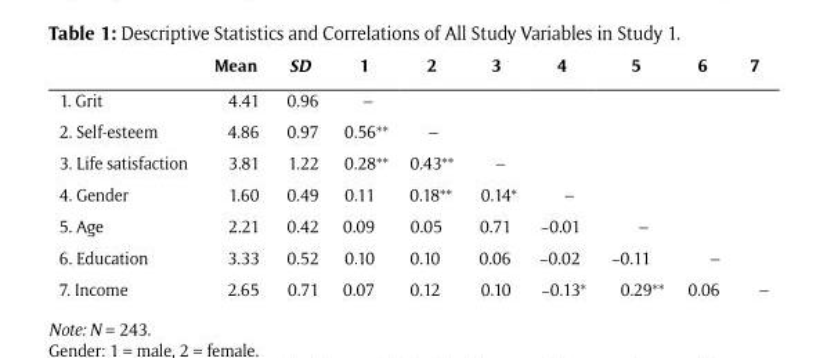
<table><thead><tr><td></td><td>Mean</td><td>SD</td><td>1</td><td>2</td><td>3</td><td>4</td><td>5</td><td>6</td><td>7</td></tr></thead><tbody><tr><td>1. Grit</td><td>4.41</td><td>0.96</td><td>–</td><td></td><td></td><td></td><td></td><td></td><td></td></tr><tr><td>2. Self-esteem</td><td>4.86</td><td>0.97</td><td>0.56**</td><td>–</td><td></td><td></td><td></td><td></td><td></td></tr><tr><td>3. Life satisfaction</td><td>3.81</td><td>1.22</td><td>0.28**</td><td>0.43**</td><td>–</td><td></td><td></td><td></td><td></td></tr><tr><td>4. Gender</td><td>1.60</td><td>0.49</td><td>0.11</td><td>0.18**</td><td>0.14*</td><td>–</td><td></td><td></td><td></td></tr><tr><td>5. Age</td><td>2.21</td><td>0.42</td><td>0.09</td><td>0.05</td><td>0.71</td><td>−0.01</td><td>–</td><td></td><td></td></tr><tr><td>6. Education</td><td>3.33</td><td>0.52</td><td>0.10</td><td>0.10</td><td>0.06</td><td>−0.02</td><td>−0.11</td><td>–</td><td></td></tr><tr><td>7. Income</td><td>2.65</td><td>0.71</td><td>0.07</td><td>0.12</td><td>0.10</td><td>−0.13*</td><td>0.29**</td><td>0.06</td><td>–</td></tr></tbody></table>